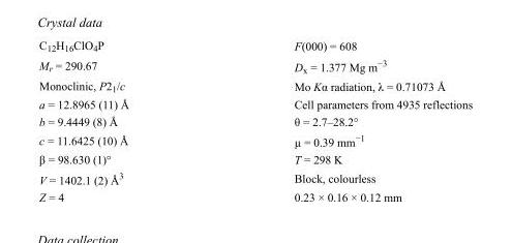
<table><tbody><tr><td>C<sub>12</sub>H<sub>16</sub>ClO<sub>4</sub>P</td><td>F(000) = 608</td></tr><tr><td>M<sub>r</sub> = 290.67</td><td>D<sub>x</sub> = 1.377 Mg m<sup>−3</sup></td></tr><tr><td>Monoclinic, P2<sub>1</sub>/c</td><td>Mo Kα radiation, λ = 0.71073 Å</td></tr><tr><td>a = 12.8965 (11) Å</td><td>Cell parameters from 4935 reflections</td></tr><tr><td>b = 9.4449 (8) Å</td><td>θ = 2.7–28.2°</td></tr><tr><td>c = 11.6425 (10) Å</td><td>µ = 0.39 mm<sup>−1</sup></td></tr><tr><td>β = 98.630 (1)°</td><td>T = 298 K</td></tr><tr><td>V = 1402.1 (2) Å<sup>3</sup></td><td>Block, colourless</td></tr><tr><td>Z = 4</td><td>0.23 × 0.16 × 0.12 mm</td></tr></tbody></table>